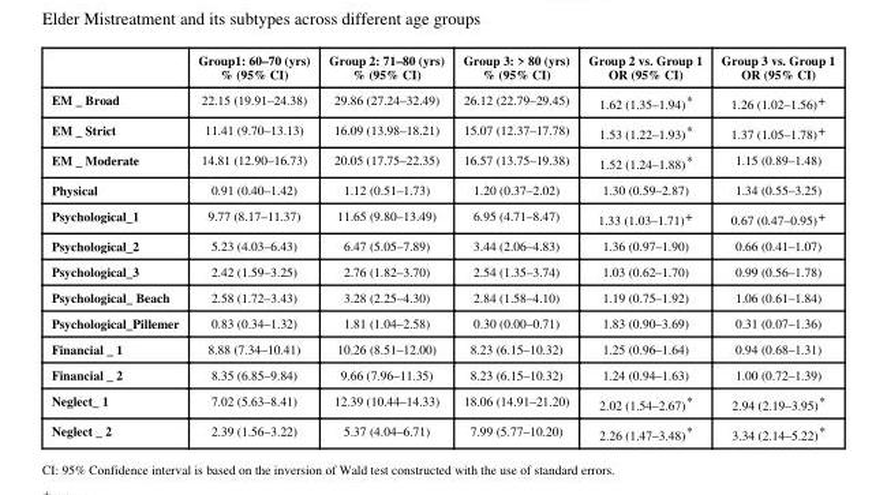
<table><thead><tr><td></td><td>Group1: 60–70 (yrs) % (95% CI)</td><td>Group 2: 71–80 (yrs) % (95% CI)</td><td>Group 3: &gt; 80 (yrs) % (95% CI)</td><td>Group 2 vs. Group 1 OR (95% CI)</td><td>Group 3 vs. Group 1 OR (95% CI)</td></tr></thead><tbody><tr><td>EM _ Broad</td><td>22.15 (19.91–24.38)</td><td>29.86 (27.24–32.49)</td><td>26.12 (22.79–29.45)</td><td>1.62 (1.35–1.94)*</td><td>1.26 (1.02–1.56)+</td></tr><tr><td>EM _ Strict</td><td>11.41 (9.70–13.13)</td><td>16.09 (13.98–18.21)</td><td>15.07 (12.37–17.78)</td><td>1.53 (1.22–1.93)*</td><td>1.37 (1.05–1.78)+</td></tr><tr><td>EM _ Moderate</td><td>14.81 (12.90–16.73)</td><td>20.05 (17.75–22.35)</td><td>16.57 (13.75–19.38)</td><td>1.52 (1.24–1.88)*</td><td>1.15 (0.89–1.48)</td></tr><tr><td>Physical</td><td>0.91 (0.40–1.42)</td><td>1.12 (0.51–1.73)</td><td>1.20 (0.37–2.02)</td><td>1.30 (0.59–2.87)</td><td>1.34 (0.55–3.25)</td></tr><tr><td>Psychological_1</td><td>9.77 (8.17–11.37)</td><td>11.65 (9.80–13.49)</td><td>6.95 (4.71–8.47)</td><td>1.33 (1.03–1.71)+</td><td>0.67 (0.47–0.95)+</td></tr><tr><td>Psychological_2</td><td>5.23 (4.03–6.43)</td><td>6.47 (5.05–7.89)</td><td>3.44 (2.06–4.83)</td><td>1.36 (0.97–1.90)</td><td>0.66 (0.41–1.07)</td></tr><tr><td>Psychological_3</td><td>2.42 (1.59–3.25)</td><td>2.76 (1.82–3.70)</td><td>2.54 (1.35–3.74)</td><td>1.03 (0.62–1.70)</td><td>0.99 (0.56–1.78)</td></tr><tr><td>Psychological_ Beach</td><td>2.58 (1.72–3.43)</td><td>3.28 (2.25–4.30)</td><td>2.84 (1.58–4.10)</td><td>1.19 (0.75–1.92)</td><td>1.06 (0.61–1.84)</td></tr><tr><td>Psychological_Pillemer</td><td>0.83 (0.34–1.32)</td><td>1.81 (1.04–2.58)</td><td>0.30 (0.00–0.71)</td><td>1.83 (0.90–3.69)</td><td>0.31 (0.07–1.36)</td></tr><tr><td>Financial _ 1</td><td>8.88 (7.34–10.41)</td><td>10.26 (8.51–12.00)</td><td>8.23 (6.15–10.32)</td><td>1.25 (0.96–1.64)</td><td>0.94 (0.68–1.31)</td></tr><tr><td>Financial _ 2</td><td>8.35 (6.85–9.84)</td><td>9.66 (7.96–11.35)</td><td>8.23 (6.15–10.32)</td><td>1.24 (0.94–1.63)</td><td>1.00 (0.72–1.39)</td></tr><tr><td>Neglect_ 1</td><td>7.02 (5.63–8.41)</td><td>12.39 (10.44–14.33)</td><td>18.06 (14.91–21.20)</td><td>2.02 (1.54–2.67)*</td><td>2.94 (2.19–3.95)*</td></tr><tr><td>Neglect _ 2</td><td>2.39 (1.56–3.22)</td><td>5.37 (4.04–6.71)</td><td>7.99 (5.77–10.20)</td><td>2.26 (1.47–3.48)*</td><td>3.34 (2.14–5.22)*</td></tr></tbody></table>